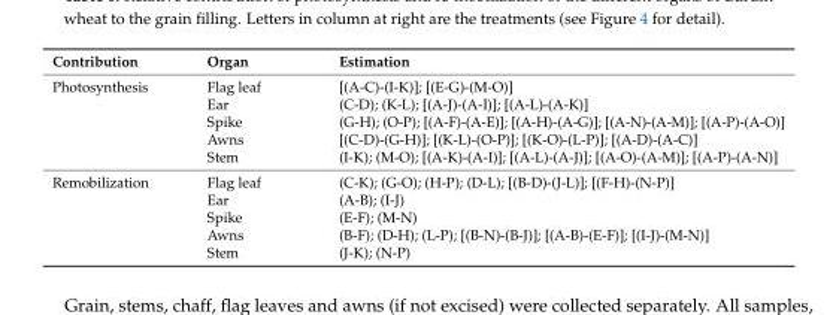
<table><thead><tr><td>Contribution</td><td>Organ</td><td>Estimation</td></tr></thead><tbody><tr><td rowspan="5">Photosynthesis</td><td>Flag leaf</td><td>[(A-C)-(I-K)]; [(E-G)-(M-O)]</td></tr><tr><td>Ear</td><td>(C-D); (K-L); [(A-J)-(A-I)]; [(A-L)-(A-K)]</td></tr><tr><td>Spike</td><td>(G-H); (O-P); [(A-F)-(A-E)]; [(A-H)-(A-G)]; [(A-N)-(A-M)]; [(A-P)-(A-O)]</td></tr><tr><td>Awns</td><td>[(C-D)-(G-H)]; [(K-L)-(O-P)]; [(K-O)-(L-P)]; [(A-D)-(A-C)]</td></tr><tr><td>Stem</td><td>(I-K); (M-O); [(A-K)-(A-I)]; [(A-L)-(A-J)]; [(A-O)-(A-M)]; [(A-P)-(A-N)]</td></tr><tr><td rowspan="5">Remobilization</td><td>Flag leaf</td><td>(C-K); (G-O); (H-P); (D-L); [(B-D)-(J-L)]; [(F-H)-(N-P)]</td></tr><tr><td>Ear</td><td>(A-B); (I-J)</td></tr><tr><td>Spike</td><td>(E-F); (M-N)</td></tr><tr><td>Awns</td><td>(B-F); (D-H); (L-P); [(B-N)-(B-J)]; [(A-B)-(E-F)]; [(I-J)-(M-N)]</td></tr><tr><td>Stem</td><td>(J-K); (N-P)</td></tr></tbody></table>